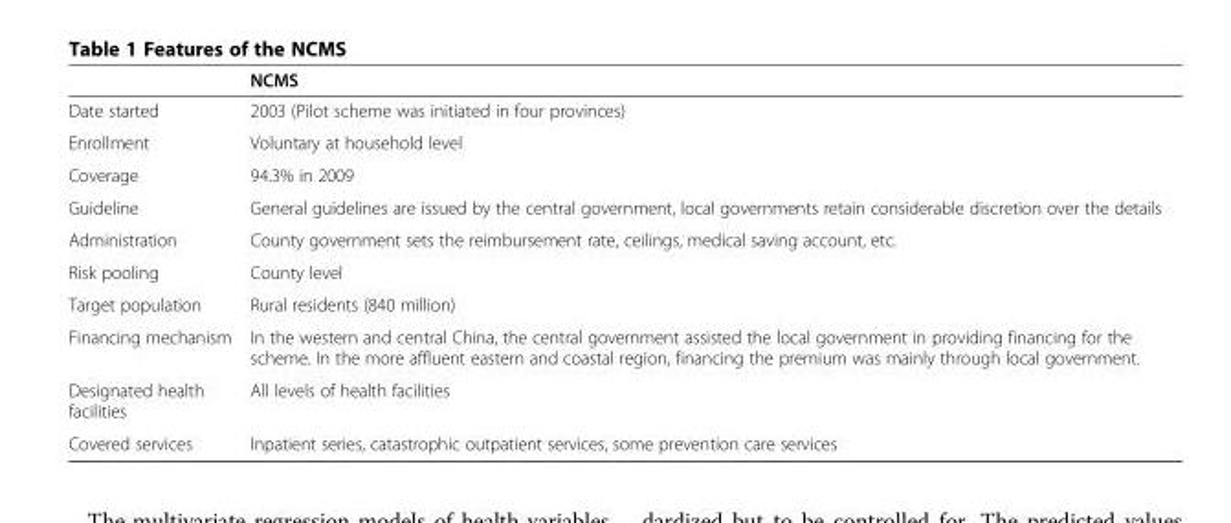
<table><thead><tr><td></td><td>NCMS</td></tr></thead><tbody><tr><td>Date started</td><td>2003 (Pilot scheme was initiated in four provinces)</td></tr><tr><td>Enrollment</td><td>Voluntary at household level</td></tr><tr><td>Coverage</td><td>94.3% in 2009</td></tr><tr><td>Guideline</td><td>General guidelines are issued by the central government, local governments retain considerable discretion over the details</td></tr><tr><td>Administration</td><td>County government sets the reimbursement rate, ceilings, medical saving account, etc.</td></tr><tr><td>Risk pooling</td><td>County level</td></tr><tr><td>Target population</td><td>Rural residents (840 million)</td></tr><tr><td>Financing mechanism</td><td>In the western and central China, the central government assisted the local government in providing financing for the scheme. In the more affluent eastern and coastal region, financing the premium was mainly through local government.</td></tr><tr><td>Designated health facilities</td><td>All levels of health facilities</td></tr><tr><td>Covered services</td><td>Inpatient series, catastrophic outpatient services, some prevention care services</td></tr></tbody></table>